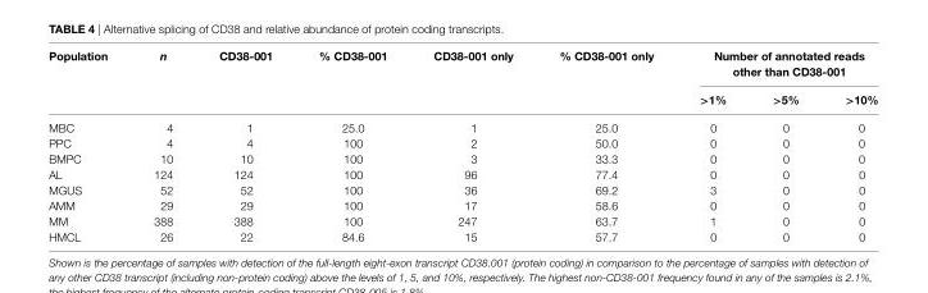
<table><thead><tr><td rowspan="2">Population</td><td rowspan="2">n</td><td rowspan="2">cD38-001</td><td rowspan="2">% cD38-001</td><td rowspan="2">cD38-001 only</td><td rowspan="2">% cD38-001 only</td><td colspan="3">number of annotated reads other than cD38-001</td></tr><tr><td>&gt;1%</td><td>&gt;5%</td><td>&gt;10%</td></tr></thead><tbody><tr><td>MBC</td><td>4</td><td>1</td><td>25.0</td><td>1</td><td>25.0</td><td>0</td><td>0</td><td>0</td></tr><tr><td>PPC</td><td>4</td><td>4</td><td>100</td><td>2</td><td>50.0</td><td>0</td><td>0</td><td>0</td></tr><tr><td>BMPC</td><td>10</td><td>10</td><td>100</td><td>3</td><td>33.3</td><td>0</td><td>0</td><td>0</td></tr><tr><td>AL</td><td>124</td><td>124</td><td>100</td><td>96</td><td>77.4</td><td>0</td><td>0</td><td>0</td></tr><tr><td>MGUS</td><td>52</td><td>52</td><td>100</td><td>36</td><td>69.2</td><td>3</td><td>0</td><td>0</td></tr><tr><td>AMM</td><td>29</td><td>29</td><td>100</td><td>17</td><td>58.6</td><td>0</td><td>0</td><td>0</td></tr><tr><td>MM</td><td>388</td><td>388</td><td>100</td><td>247</td><td>63.7</td><td>1</td><td>0</td><td>0</td></tr><tr><td>HMCL</td><td>26</td><td>22</td><td>84.6</td><td>15</td><td>57.7</td><td>0</td><td>0</td><td>0</td></tr></tbody></table>